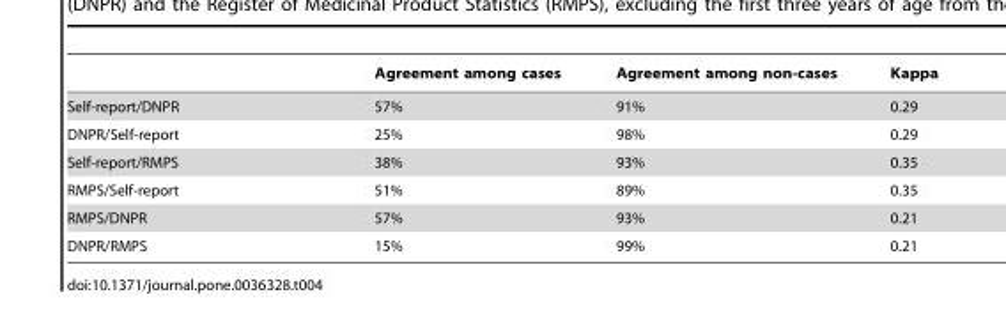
<table><thead><tr><td></td><td>Agreement among cases</td><td>Agreement among non-cases</td><td>Kappa</td></tr></thead><tbody><tr><td>Self-report/DNPR</td><td>57%</td><td>91%</td><td>0.29</td></tr><tr><td>DNPR/Self-report</td><td>25%</td><td>98%</td><td>0.29</td></tr><tr><td>Self-report/RMPS</td><td>38%</td><td>93%</td><td>0.35</td></tr><tr><td>RMPS/Self-report</td><td>51%</td><td>89%</td><td>0.35</td></tr><tr><td>RMPS/DNPR</td><td>57%</td><td>93%</td><td>0.21</td></tr><tr><td>DNPR/RMPS</td><td>15%</td><td>99%</td><td>0.21</td></tr></tbody></table>